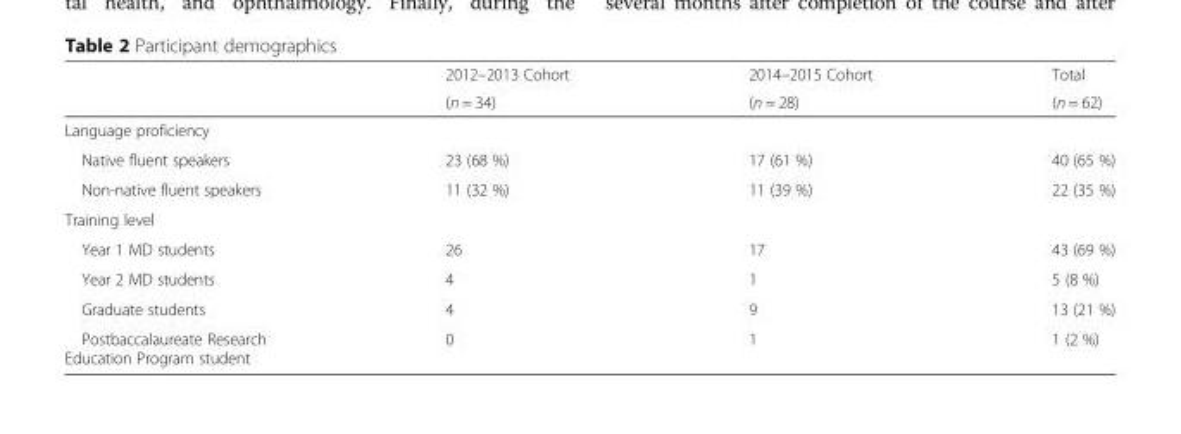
<table><thead><tr><td rowspan="2"></td><td rowspan="2">2012–2013 Cohort (n = 34)</td><td rowspan="2">2014–2015 Cohort (n = 28)</td><td rowspan="2">Total (n = 62)</td></tr><tr></tr></thead><tbody><tr><td colspan="4">Language proficiency</td></tr><tr><td>Native fluent speakers</td><td>23 (68 %)</td><td>17 (61 %)</td><td>40 (65 %)</td></tr><tr><td>Non-native fluent speakers</td><td>11 (32 %)</td><td>11 (39 %)</td><td>22 (35 %)</td></tr><tr><td colspan="4">Training level</td></tr><tr><td>Year 1 MD students</td><td>26</td><td>17</td><td>43 (69 %)</td></tr><tr><td>Year 2 MD students</td><td>4</td><td>1</td><td>5 (8 %)</td></tr><tr><td>Graduate students</td><td>4</td><td>9</td><td>13 (21 %)</td></tr><tr><td>Postbaccalaureate Research Education Program student</td><td>0</td><td>1</td><td>1 (2 %)</td></tr></tbody></table>